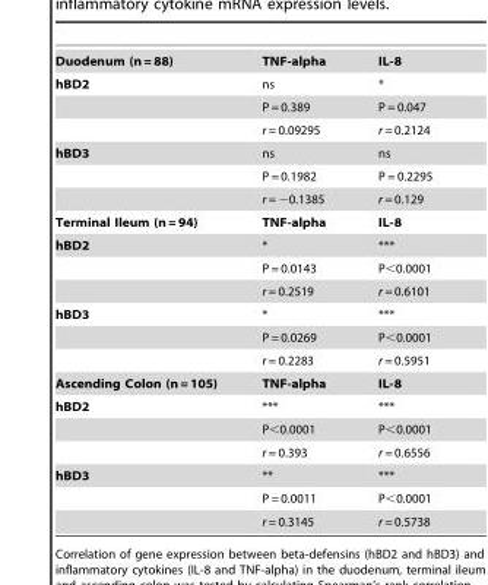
<table><tbody><tr><td>Duodenum (n = 88)</td><td>TNF-alpha</td><td>IL-8</td></tr><tr><td rowspan="3">hBD2</td><td>ns</td><td>*</td></tr><tr><td>P = 0.389</td><td>P = 0.047</td></tr><tr><td>r = 0.09295</td><td>r = 0.2124</td></tr><tr><td rowspan="3">hBD3</td><td>ns</td><td>ns</td></tr><tr><td>P = 0.1982</td><td>P = 0.2295</td></tr><tr><td>r = −0.1385</td><td>r = 0.129</td></tr><tr><td>Terminal Ileum (n = 94)</td><td>TNF-alpha</td><td>IL-8</td></tr><tr><td rowspan="3">hBD2</td><td>*</td><td>***</td></tr><tr><td>P = 0.0143</td><td>P&lt;0.0001</td></tr><tr><td>r = 0.2519</td><td>r = 0.6101</td></tr><tr><td rowspan="3">hBD3</td><td>*</td><td>***</td></tr><tr><td>P = 0.0269</td><td>P&lt;0.0001</td></tr><tr><td>r = 0.2283</td><td>r = 0.5951</td></tr><tr><td>Ascending Colon (n = 105)</td><td>TNF-alpha</td><td>IL-8</td></tr><tr><td rowspan="3">hBD2</td><td>***</td><td>***</td></tr><tr><td>P&lt;0.0001</td><td>P&lt;0.0001</td></tr><tr><td>r = 0.393</td><td>r = 0.6556</td></tr><tr><td rowspan="3">hBD3</td><td>**</td><td>***</td></tr><tr><td>P = 0.0011</td><td>P&lt;0.0001</td></tr><tr><td>r = 0.3145</td><td>r = 0.5738</td></tr></tbody></table>